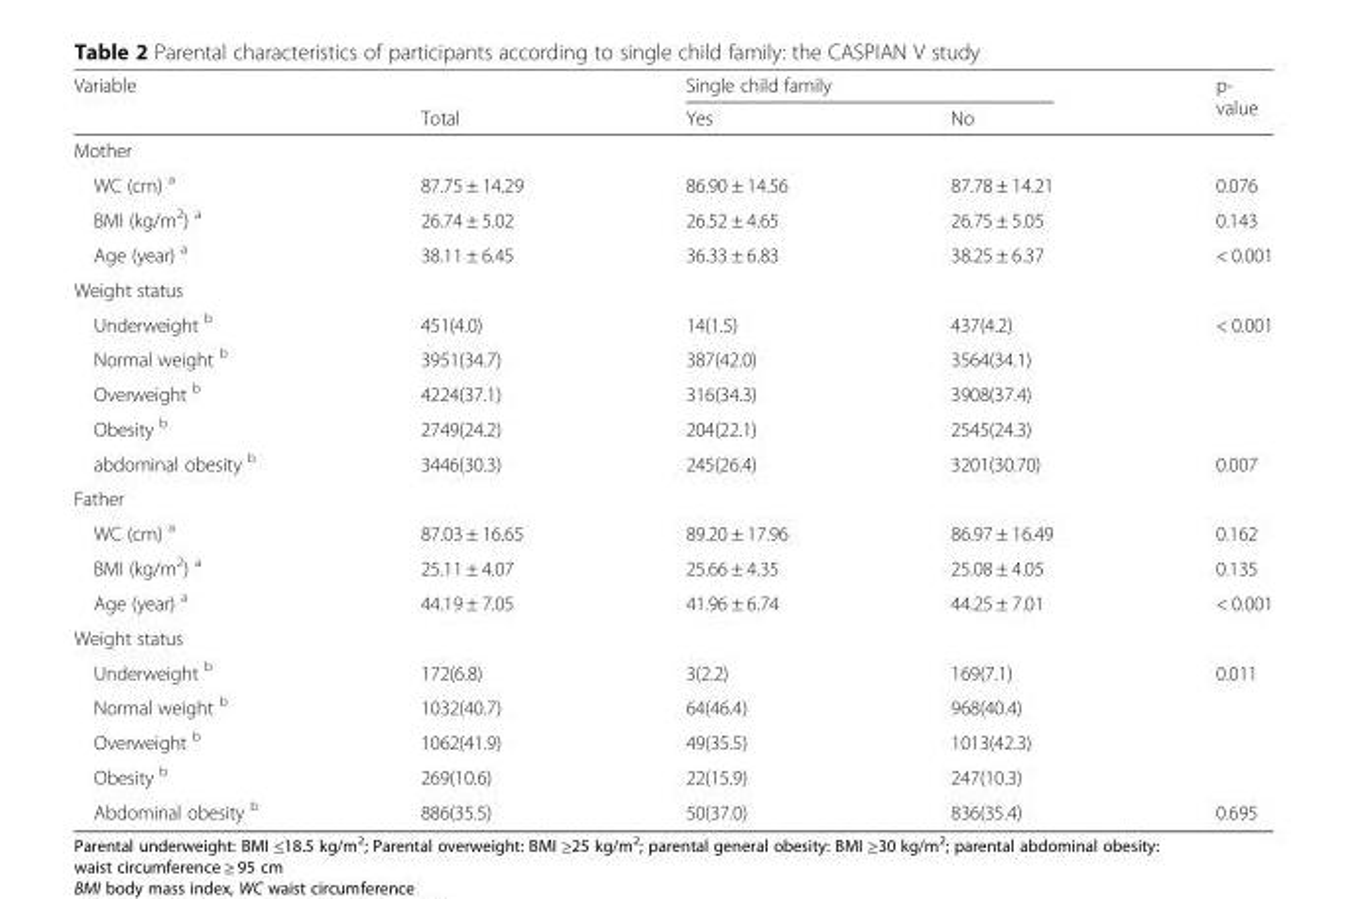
<table><thead><tr><td rowspan="2">Variable</td><td rowspan="2">Total</td><td colspan="2">Single child family</td><td rowspan="2">p- value</td></tr><tr><td>Yes</td><td>No</td></tr></thead><tbody><tr><td colspan="5">Mother</td></tr><tr><td>WC (cm) <sup>a</sup></td><td>87.75 ± 14.29</td><td>86.90 ± 14.56</td><td>87.78 ± 14.21</td><td>0.076</td></tr><tr><td>BMI (kg/m<sup>2</sup>) <sup>a</sup></td><td>26.74 ± 5.02</td><td>26.52 ± 4.65</td><td>26.75 ± 5.05</td><td>0.143</td></tr><tr><td>Age (year) <sup>a</sup></td><td>38.11 ± 6.45</td><td>36.33 ± 6.83</td><td>38.25 ± 6.37</td><td>&lt; 0.001</td></tr><tr><td colspan="5">Weight status</td></tr><tr><td>Underweight <sup>b</sup></td><td>451(4.0)</td><td>14(1.5)</td><td>437(4.2)</td><td rowspan="4">&lt; 0.001</td></tr><tr><td>Normal weight <sup>b</sup></td><td>3951(34.7)</td><td>387(42.0)</td><td>3564(34.1)</td></tr><tr><td>Overweight <sup>b</sup></td><td>4224(37.1)</td><td>316(34.3)</td><td>3908(37.4)</td></tr><tr><td>Obesity <sup>b</sup></td><td>2749(24.2)</td><td>204(22.1)</td><td>2545(24.3)</td></tr><tr><td>abdominal obesity <sup>b</sup></td><td>3446(30.3)</td><td>245(26.4)</td><td>3201(30.70)</td><td>0.007</td></tr><tr><td colspan="5">Father</td></tr><tr><td>WC (cm) <sup>a</sup></td><td>87.03 ± 16.65</td><td>89.20 ± 17.96</td><td>86.97 ± 16.49</td><td>0.162</td></tr><tr><td>BMI (kg/m<sup>2</sup>) <sup>a</sup></td><td>25.11 ± 4.07</td><td>25.66 ± 4.35</td><td>25.08 ± 4.05</td><td>0.135</td></tr><tr><td>Age (year) <sup>a</sup></td><td>44.19 ± 7.05</td><td>41.96 ± 6.74</td><td>44.25 ± 7.01</td><td>&lt; 0.001</td></tr><tr><td colspan="5">Weight status</td></tr><tr><td>Underweight <sup>b</sup></td><td>172(6.8)</td><td>3(2.2)</td><td>169(7.1)</td><td rowspan="4">0.011</td></tr><tr><td>Normal weight <sup>b</sup></td><td>1032(40.7)</td><td>64(46.4)</td><td>968(40.4)</td></tr><tr><td>Overweight <sup>b</sup></td><td>1062(41.9)</td><td>49(35.5)</td><td>1013(42.3)</td></tr><tr><td>Obesity <sup>b</sup></td><td>269(10.6)</td><td>22(15.9)</td><td>247(10.3)</td></tr><tr><td>Abdominal obesity <sup>b</sup></td><td>886(35.5)</td><td>50(37.0)</td><td>836(35.4)</td><td>0.695</td></tr></tbody></table>